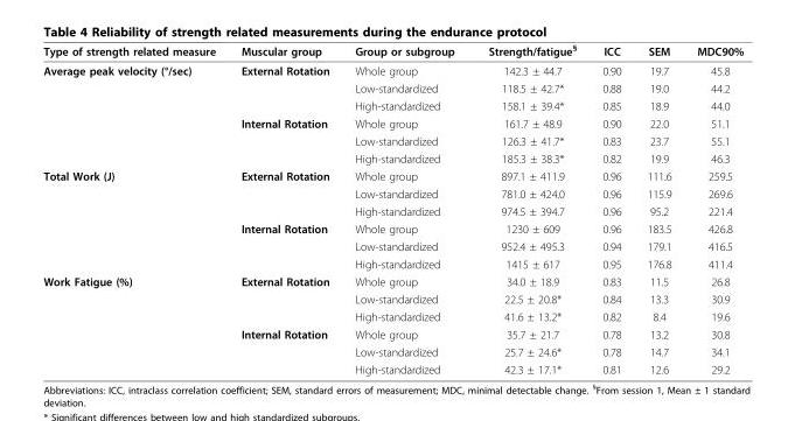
<table><thead><tr><td>Type of strength related measure</td><td>Muscular group</td><td>Group or subgroup</td><td>Strength/fatigue<sup>§</sup></td><td>ICC</td><td>SEM</td><td>MDC90%</td></tr></thead><tbody><tr><td rowspan="6">Average peak velocity (°/sec)</td><td>External Rotation</td><td>Whole group</td><td>142.3 ± 44.7</td><td>0.90</td><td>19.7</td><td>45.8</td></tr><tr><td></td><td>Low-standardized</td><td>118.5 ± 42.7*</td><td>0.88</td><td>19.0</td><td>44.2</td></tr><tr><td></td><td>High-standardized</td><td>158.1 ± 39.4*</td><td>0.85</td><td>18.9</td><td>44.0</td></tr><tr><td>Internal Rotation</td><td>Whole group</td><td>161.7 ± 48.9</td><td>0.90</td><td>22.0</td><td>51.1</td></tr><tr><td></td><td>Low-standardized</td><td>126.3 ± 41.7*</td><td>0.83</td><td>23.7</td><td>55.1</td></tr><tr><td></td><td>High-standardized</td><td>185.3 ± 38.3*</td><td>0.82</td><td>19.9</td><td>46.3</td></tr><tr><td rowspan="6">Total Work (J)</td><td>External Rotation</td><td>Whole group</td><td>897.1 ± 411.9</td><td>0.96</td><td>111.6</td><td>259.5</td></tr><tr><td></td><td>Low-standardized</td><td>781.0 ± 424.0</td><td>0.96</td><td>115.9</td><td>269.6</td></tr><tr><td></td><td>High-standardized</td><td>974.5 ± 394.7</td><td>0.96</td><td>95.2</td><td>221.4</td></tr><tr><td>Internal Rotation</td><td>Whole group</td><td>1230 ± 609</td><td>0.96</td><td>183.5</td><td>426.8</td></tr><tr><td></td><td>Low-standardized</td><td>952.4 ± 495.3</td><td>0.94</td><td>179.1</td><td>416.5</td></tr><tr><td></td><td>High-standardized</td><td>1415 ± 617</td><td>0.95</td><td>176.8</td><td>411.4</td></tr><tr><td rowspan="6">Work Fatigue (%)</td><td>External Rotation</td><td>Whole group</td><td>34.0 ± 18.9</td><td>0.83</td><td>11.5</td><td>26.8</td></tr><tr><td></td><td>Low-standardized</td><td>22.5 ± 20.8*</td><td>0.84</td><td>13.3</td><td>30.9</td></tr><tr><td></td><td>High-standardized</td><td>41.6 ± 13.2*</td><td>0.82</td><td>8.4</td><td>19.6</td></tr><tr><td>Internal Rotation</td><td>Whole group</td><td>35.7 ± 21.7</td><td>0.78</td><td>13.2</td><td>30.8</td></tr><tr><td></td><td>Low-standardized</td><td>25.7 ± 24.6*</td><td>0.78</td><td>14.7</td><td>34.1</td></tr><tr><td></td><td>High-standardized</td><td>42.3 ± 17.1*</td><td>0.81</td><td>12.6</td><td>29.2</td></tr></tbody></table>